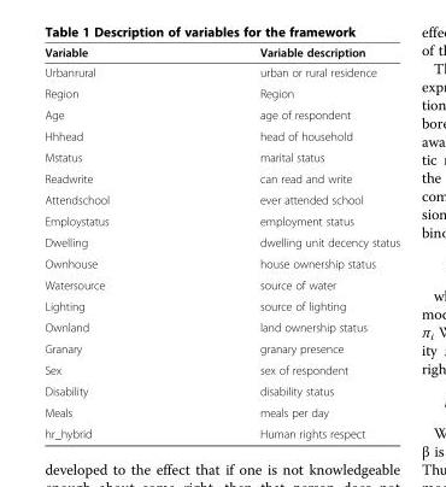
<table><thead><tr><td>Variable</td><td>Variable description</td></tr></thead><tbody><tr><td>Urbanrural</td><td>urban or rural residence</td></tr><tr><td>Region</td><td>Region</td></tr><tr><td>Age</td><td>age of respondent</td></tr><tr><td>Hhhead</td><td>head of household</td></tr><tr><td>Mstatus</td><td>marital status</td></tr><tr><td>Readwrite</td><td>can read and write</td></tr><tr><td>Attendschool</td><td>ever attended school</td></tr><tr><td>Employstatus</td><td>employment status</td></tr><tr><td>Dwelling</td><td>dwelling unit decency status</td></tr><tr><td>Ownhouse</td><td>house ownership status</td></tr><tr><td>Watersource</td><td>source of water</td></tr><tr><td>Lighting</td><td>source of lighting</td></tr><tr><td>Ownland</td><td>land ownership status</td></tr><tr><td>Granary</td><td>granary presence</td></tr><tr><td>Sex</td><td>sex of respondent</td></tr><tr><td>Disability</td><td>disability status</td></tr><tr><td>Meals</td><td>meals per day</td></tr><tr><td>hr_hybrid</td><td>Human rights respect</td></tr></tbody></table>